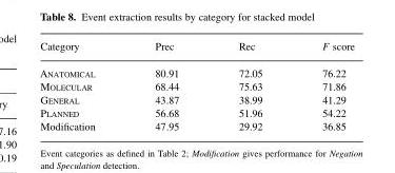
<table><thead><tr><td>Category</td><td>Prec</td><td>Rec</td><td>F score</td></tr></thead><tbody><tr><td>Anatomical</td><td>80.91</td><td>72.05</td><td>76.22</td></tr><tr><td>Molecular</td><td>68.44</td><td>75.63</td><td>71.86</td></tr><tr><td>General</td><td>43.87</td><td>38.99</td><td>41.29</td></tr><tr><td>Planned</td><td>56.68</td><td>51.96</td><td>54.22</td></tr><tr><td>Modification</td><td>47.95</td><td>29.92</td><td>36.85</td></tr></tbody></table>